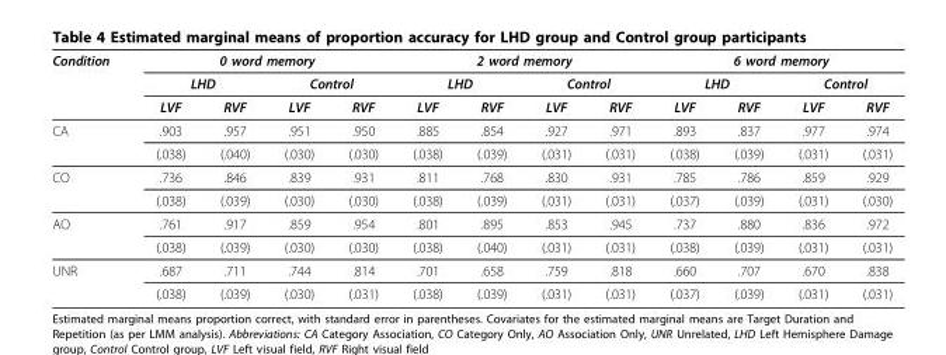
<table><thead><tr><td rowspan="3">Condition</td><td colspan="4">0 word memory</td><td colspan="4">2 word memory</td><td colspan="4">6 word memory</td></tr><tr><td colspan="2">LHD</td><td colspan="2">Control</td><td colspan="2">LHD</td><td colspan="2">Control</td><td colspan="2">LHD</td><td colspan="2">Control</td></tr><tr><td>LVF</td><td>RVF</td><td>LVF</td><td>RVF</td><td>LVF</td><td>RVF</td><td>LVF</td><td>RVF</td><td>LVF</td><td>RVF</td><td>LVF</td><td>RVF</td></tr></thead><tbody><tr><td rowspan="2">CA</td><td>.903</td><td>.957</td><td>.951</td><td>.950</td><td>.885</td><td>.854</td><td>.927</td><td>.971</td><td>.893</td><td>.837</td><td>.977</td><td>.974</td></tr><tr><td>(.038)</td><td>(.040)</td><td>(.030)</td><td>(.030)</td><td>(.038)</td><td>(.039)</td><td>(.031)</td><td>(.031)</td><td>(.038)</td><td>(.039)</td><td>(.031)</td><td>(.031)</td></tr><tr><td rowspan="2">CO</td><td>.736</td><td>.846</td><td>.839</td><td>.931</td><td>.811</td><td>.768</td><td>.830</td><td>.931</td><td>.785</td><td>.786</td><td>.859</td><td>.929</td></tr><tr><td>(.038)</td><td>(.039)</td><td>(.030)</td><td>(.030)</td><td>(.038)</td><td>(.039)</td><td>(.031)</td><td>(.031)</td><td>(.037)</td><td>(.039)</td><td>(.031)</td><td>(.030)</td></tr><tr><td rowspan="2">AO</td><td>.761</td><td>.917</td><td>.859</td><td>.954</td><td>.801</td><td>.895</td><td>.853</td><td>.945</td><td>.737</td><td>.880</td><td>.836</td><td>.972</td></tr><tr><td>(.038)</td><td>(.039)</td><td>(.030)</td><td>(.030)</td><td>(.038)</td><td>(.040)</td><td>(.031)</td><td>(.031)</td><td>(.038)</td><td>(.039)</td><td>(.031)</td><td>(.031)</td></tr><tr><td rowspan="2">UNR</td><td>.687</td><td>.711</td><td>.744</td><td>.814</td><td>.701</td><td>.658</td><td>.759</td><td>.818</td><td>.660</td><td>.707</td><td>.670</td><td>.838</td></tr><tr><td>(.038)</td><td>(.039)</td><td>(.030)</td><td>(.031)</td><td>(.038)</td><td>(.039)</td><td>(.031)</td><td>(.031)</td><td>(.037)</td><td>(.039)</td><td>(.031)</td><td>(.031)</td></tr></tbody></table>